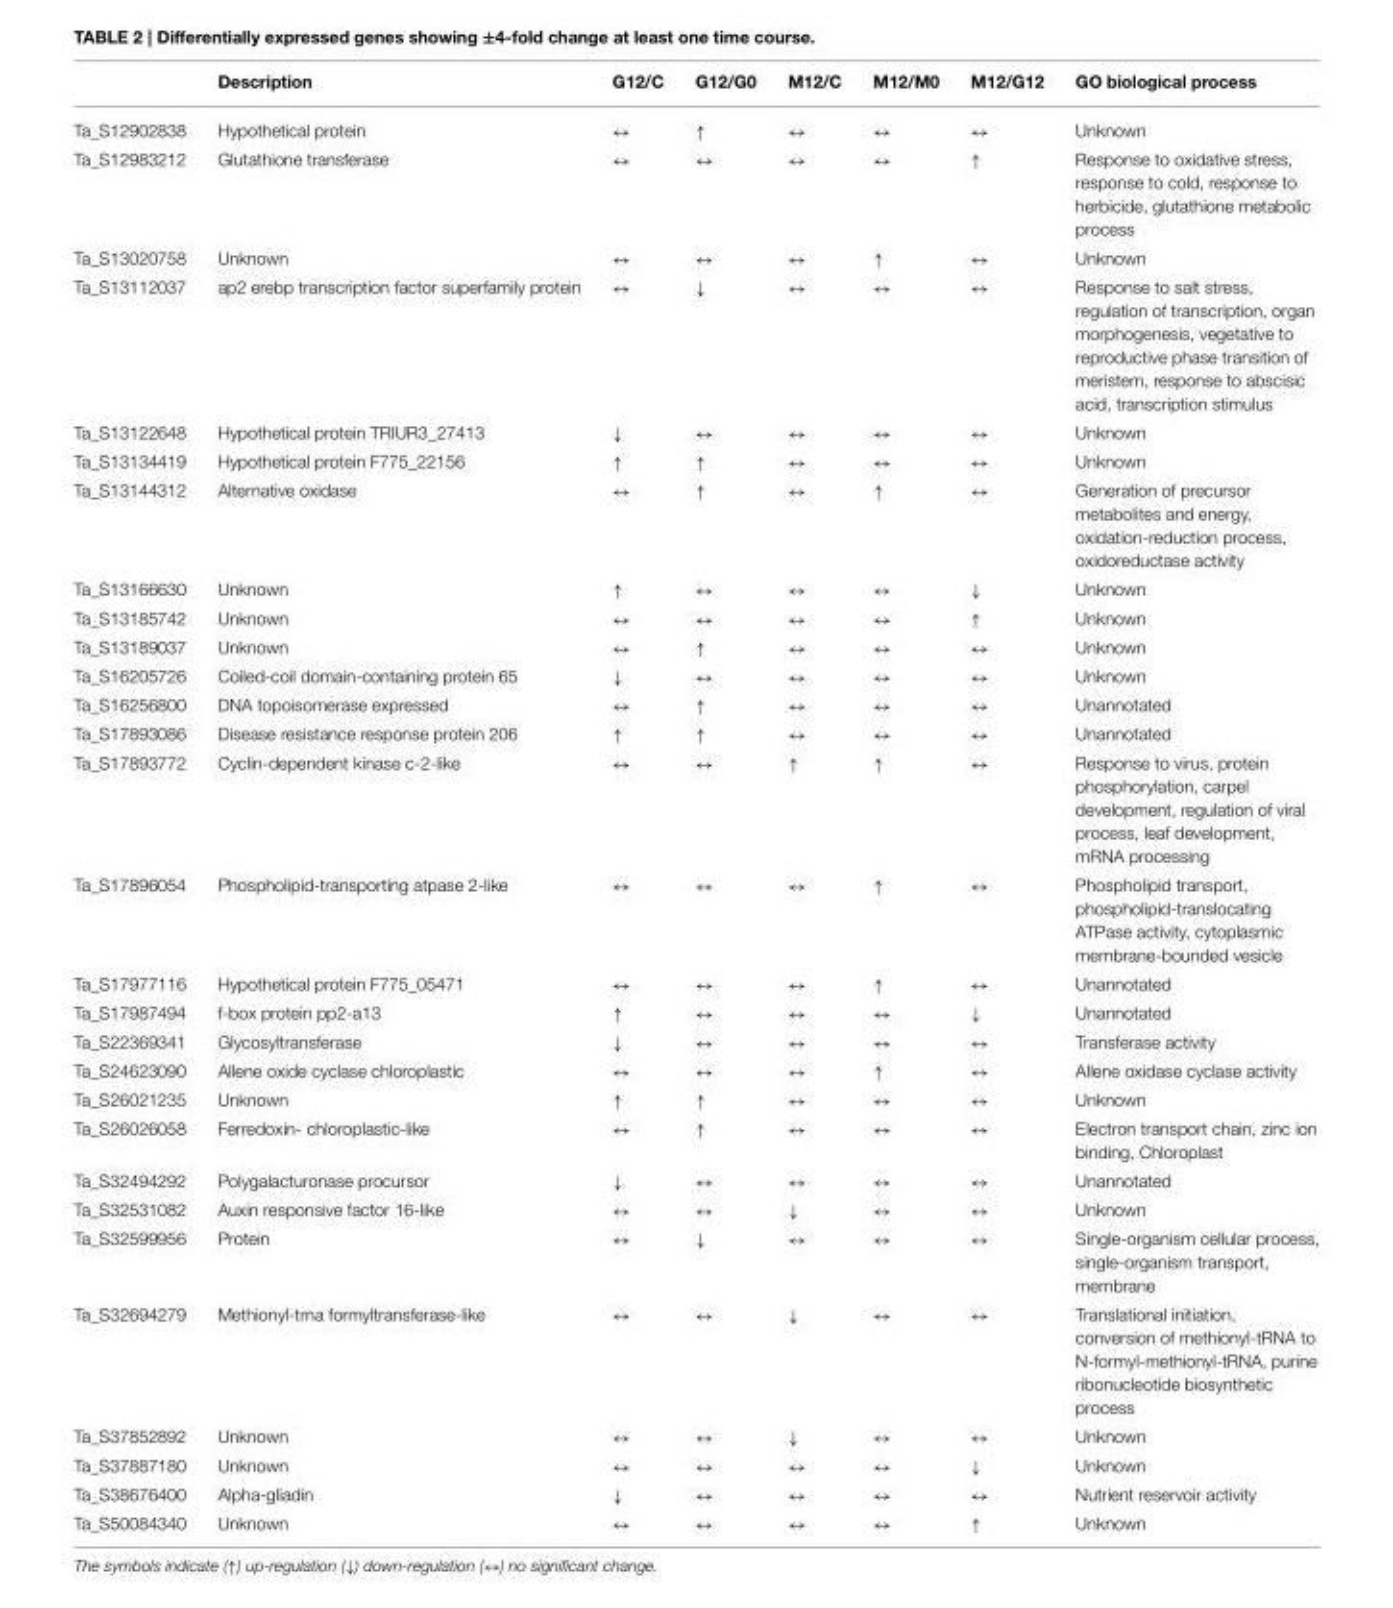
<table><thead><tr><td></td><td>Description</td><td>G12/C</td><td>G12/G0</td><td>M12/C</td><td>M12/M0</td><td>M12/G12</td><td>GO biological process</td></tr></thead><tbody><tr><td>Ta_S12902838</td><td>Hypothetical protein</td><td>↔</td><td>↑</td><td>↔</td><td>↔</td><td>↔</td><td>Unknown</td></tr><tr><td>Ta_S12983212</td><td>Glutathione transferase</td><td>↔</td><td>↔</td><td>↔</td><td>↔</td><td>↑</td><td>Response to oxidative stress, response to cold, response to herbicide, glutathione metabolic process</td></tr><tr><td>Ta_S13020758</td><td>Unknown</td><td>↔</td><td>↔</td><td>↔</td><td>↑</td><td>↔</td><td>Unknown</td></tr><tr><td>Ta_S13112037</td><td>ap2 erebp transcription factor superfamily protein</td><td>↔</td><td>↓</td><td>↔</td><td>↔</td><td>↔</td><td>Response to salt stress, regulation of transcription, organ morphogenesis, vegetative to reproductive phase transition of meristem, response to abscisic acid, transcription stimulus</td></tr><tr><td>Ta_S13122648</td><td>Hypothetical protein TRIUR3_27413</td><td>↓</td><td>↔</td><td>↔</td><td>↔</td><td>↔</td><td>Unknown</td></tr><tr><td>Ta_S13134419</td><td>Hypothetical protein F775_22156</td><td>↑</td><td>↑</td><td>↔</td><td>↔</td><td>↔</td><td>Unknown</td></tr><tr><td>Ta_S13144312</td><td>Alternative oxidase</td><td>↔</td><td>↑</td><td>↔</td><td>↑</td><td>↔</td><td>Generation of precursor metabolites and energy, oxidation-reduction process, oxidoreductase activity</td></tr><tr><td>Ta_S13166630</td><td>Unknown</td><td>↑</td><td>↔</td><td>↔</td><td>↔</td><td>↓</td><td>Unknown</td></tr><tr><td>Ta_S13185742</td><td>Unknown</td><td>↔</td><td>↔</td><td>↔</td><td>↔</td><td>↑</td><td>Unknown</td></tr><tr><td>Ta_S13189037</td><td>Unknown</td><td>↔</td><td>↑</td><td>↔</td><td>↔</td><td>↔</td><td>Unknown</td></tr><tr><td>Ta_S16205726</td><td>Coiled-coil domain-containing protein 65</td><td>↓</td><td>↔</td><td>↔</td><td>↔</td><td>↔</td><td>Unknown</td></tr><tr><td>Ta_S16256800</td><td>DNA topoisomerase expressed</td><td>↔</td><td>↑</td><td>↔</td><td>↔</td><td>↔</td><td>Unannotated</td></tr><tr><td>Ta_S17893086</td><td>Disease resistance response protein 206</td><td>↑</td><td>↑</td><td>↔</td><td>↔</td><td>↔</td><td>Unannotated</td></tr><tr><td>Ta_S17893772</td><td>Cyclin-dependent kinase c-2-like</td><td>↔</td><td>↔</td><td>↑</td><td>↑</td><td>↔</td><td>Response to virus, protein phosphorylation, carpel development, regulation of viral process, leaf development, mRNA processing</td></tr><tr><td>Ta_S17896054</td><td>Phospholipid-transporting atpase 2-like</td><td>↔</td><td>↔</td><td>↔</td><td>↑</td><td>↔</td><td>Phospholipid transport, phospholipid-translocating ATPase activity, cytoplasmic membrane-bounded vesicle</td></tr><tr><td>Ta_S17977116</td><td>Hypothetical protein F775_05471</td><td>↔</td><td>↔</td><td>↔</td><td>↑</td><td>↔</td><td>Unannotated</td></tr><tr><td>Ta_S17987494</td><td>f-box protein pp2-a13</td><td>↑</td><td>↔</td><td>↔</td><td>↔</td><td>↓</td><td>Unannotated</td></tr><tr><td>Ta_S22369341</td><td>Glycosyltransferase</td><td>↓</td><td>↔</td><td>↔</td><td>↔</td><td>↔</td><td>Transferase activity</td></tr><tr><td>Ta_S24623090</td><td>Allene oxide cyclase chloroplastic</td><td>↔</td><td>↔</td><td>↔</td><td>↑</td><td>↔</td><td>Allene oxidase cyclase activity</td></tr><tr><td>Ta_S26021235</td><td>Unknown</td><td>↑</td><td>↑</td><td>↔</td><td>↔</td><td>↔</td><td>Unknown</td></tr><tr><td>Ta_S26026058</td><td>Ferredoxin- chloroplastic-like</td><td>↔</td><td>↑</td><td>↔</td><td>↔</td><td>↔</td><td>Electron transport chain, zinc ion binding, Chloroplast</td></tr><tr><td>Ta_S32494292</td><td>Polygalacturonase procursor</td><td>↓</td><td>↔</td><td>↔</td><td>↔</td><td>↔</td><td>Unannotated</td></tr><tr><td>Ta_S32531082</td><td>Auxin responsive factor 16-like</td><td>↔</td><td>↔</td><td>↓</td><td>↔</td><td>↔</td><td>Unknown</td></tr><tr><td>Ta_S32599956</td><td>Protein</td><td>↔</td><td>↓</td><td>↔</td><td>↔</td><td>↔</td><td>Single-organism cellular process, single-organism transport, membrane</td></tr><tr><td>Ta_S32694279</td><td>Methionyl-trna formyltransferase-like</td><td>↔</td><td>↔</td><td>↓</td><td>↔</td><td>↔</td><td>Translational initiation, conversion of methionyl-tRNA to N-formyl-methionyl-tRNA, purine ribonucleotide biosynthetic process</td></tr><tr><td>Ta_S37852892</td><td>Unknown</td><td>↔</td><td>↔</td><td>↓</td><td>↔</td><td>↔</td><td>Unknown</td></tr><tr><td>Ta_S37887180</td><td>Unknown</td><td>↔</td><td>↔</td><td>↔</td><td>↔</td><td>↓</td><td>Unknown</td></tr><tr><td>Ta_S38676400</td><td>Alpha-gliadin</td><td>↓</td><td>↔</td><td>↔</td><td>↔</td><td>↔</td><td>Nutrient reservoir activity</td></tr><tr><td>Ta_S50084340</td><td>Unknown</td><td>↔</td><td>↔</td><td>↔</td><td>↔</td><td>↑</td><td>Unknown</td></tr></tbody></table>